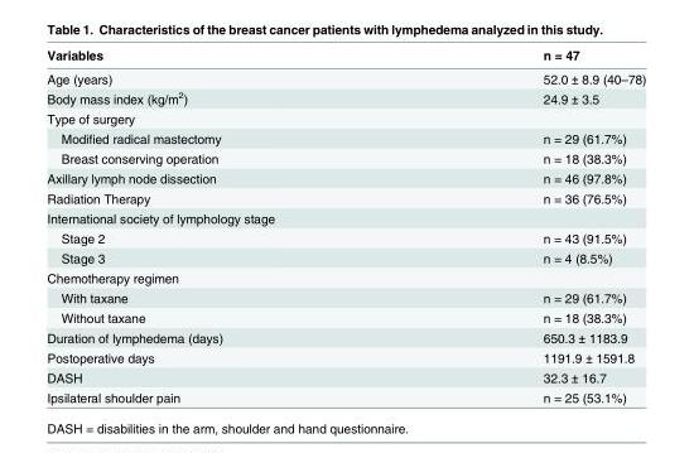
<table><thead><tr><td>Variables</td><td>n = 47</td></tr></thead><tbody><tr><td>Age (years)</td><td>52.0 ± 8.9 (40–78)</td></tr><tr><td>Body mass index (kg/m<sup>2</sup>)</td><td>24.9 ± 3.5</td></tr><tr><td colspan="2">Type of surgery</td></tr><tr><td>Modified radical mastectomy</td><td>n = 29 (61.7%)</td></tr><tr><td>Breast conserving operation</td><td>n = 18 (38.3%)</td></tr><tr><td>Axillary lymph node dissection</td><td>n = 46 (97.8%)</td></tr><tr><td>Radiation Therapy</td><td>n = 36 (76.5%)</td></tr><tr><td colspan="2">International society of lymphology stage</td></tr><tr><td>Stage 2</td><td>n = 43 (91.5%)</td></tr><tr><td>Stage 3</td><td>n = 4 (8.5%)</td></tr><tr><td colspan="2">Chemotherapy regimen</td></tr><tr><td>With taxane</td><td>n = 29 (61.7%)</td></tr><tr><td>Without taxane</td><td>n = 18 (38.3%)</td></tr><tr><td>Duration of lymphedema (days)</td><td>650.3 ± 1183.9</td></tr><tr><td>Postoperative days</td><td>1191.9 ± 1591.8</td></tr><tr><td>DASH</td><td>32.3 ± 16.7</td></tr><tr><td>Ipsilateral shoulder pain</td><td>n = 25 (53.1%)</td></tr></tbody></table>